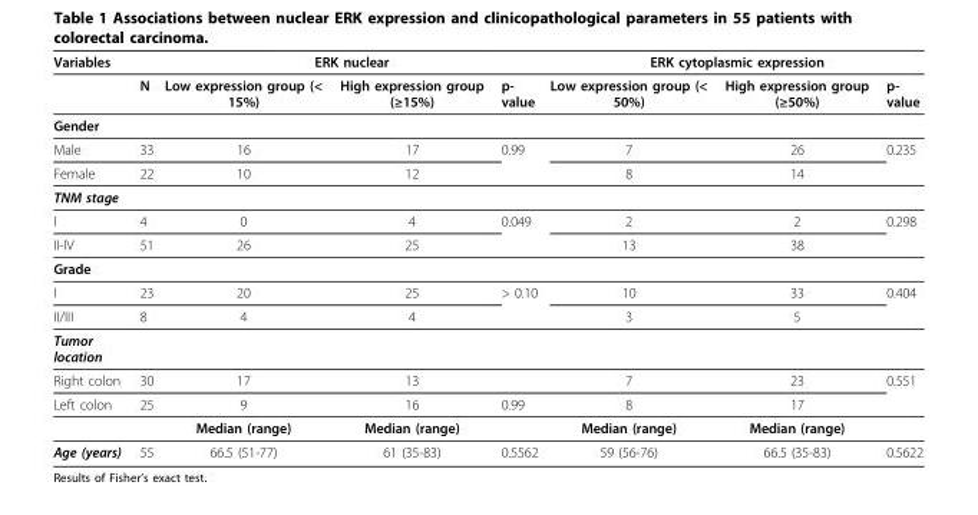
<table><thead><tr><td rowspan="2">Variables</td><td rowspan="2">N</td><td colspan="3">ERK nuclear</td><td colspan="3">ERK cytoplasmic expression</td></tr><tr><td>Low expression group (&lt; 15%)</td><td>High expression group (≥15%)</td><td>p- value</td><td>Low expression group (&lt; 50%)</td><td>High expression group (≥50%)</td><td>p- value</td></tr></thead><tbody><tr><td colspan="8">Gender</td></tr><tr><td>Male</td><td>33</td><td>16</td><td>17</td><td>0.99</td><td>7</td><td>26</td><td>0.235</td></tr><tr><td>Female</td><td>22</td><td>10</td><td>12</td><td></td><td>8</td><td>14</td><td></td></tr><tr><td colspan="8">TNM stage</td></tr><tr><td>I</td><td>4</td><td>0</td><td>4</td><td>0.049</td><td>2</td><td>2</td><td>0.298</td></tr><tr><td>II-IV</td><td>51</td><td>26</td><td>25</td><td></td><td>13</td><td>38</td><td></td></tr><tr><td colspan="8">Grade</td></tr><tr><td>I</td><td>23</td><td>20</td><td>25</td><td>&gt; 0.10</td><td>10</td><td>33</td><td>0.404</td></tr><tr><td>II/III</td><td>8</td><td>4</td><td>4</td><td></td><td>3</td><td>5</td><td></td></tr><tr><td colspan="8">Tumor location</td></tr><tr><td>Right colon</td><td>30</td><td>17</td><td>13</td><td></td><td>7</td><td>23</td><td>0.551</td></tr><tr><td rowspan="2">Left colon</td><td>25</td><td>9</td><td>16</td><td>0.99</td><td>8</td><td>17</td><td></td></tr><tr><td></td><td>Median (range)</td><td>Median (range)</td><td></td><td>Median (range)</td><td>Median (range)</td><td></td></tr><tr><td>Age (years)</td><td>55</td><td>66.5 (51-77)</td><td>61 (35-83)</td><td>0.5562</td><td>59 (56-76)</td><td>66.5 (35-83)</td><td>0.5622</td></tr></tbody></table>